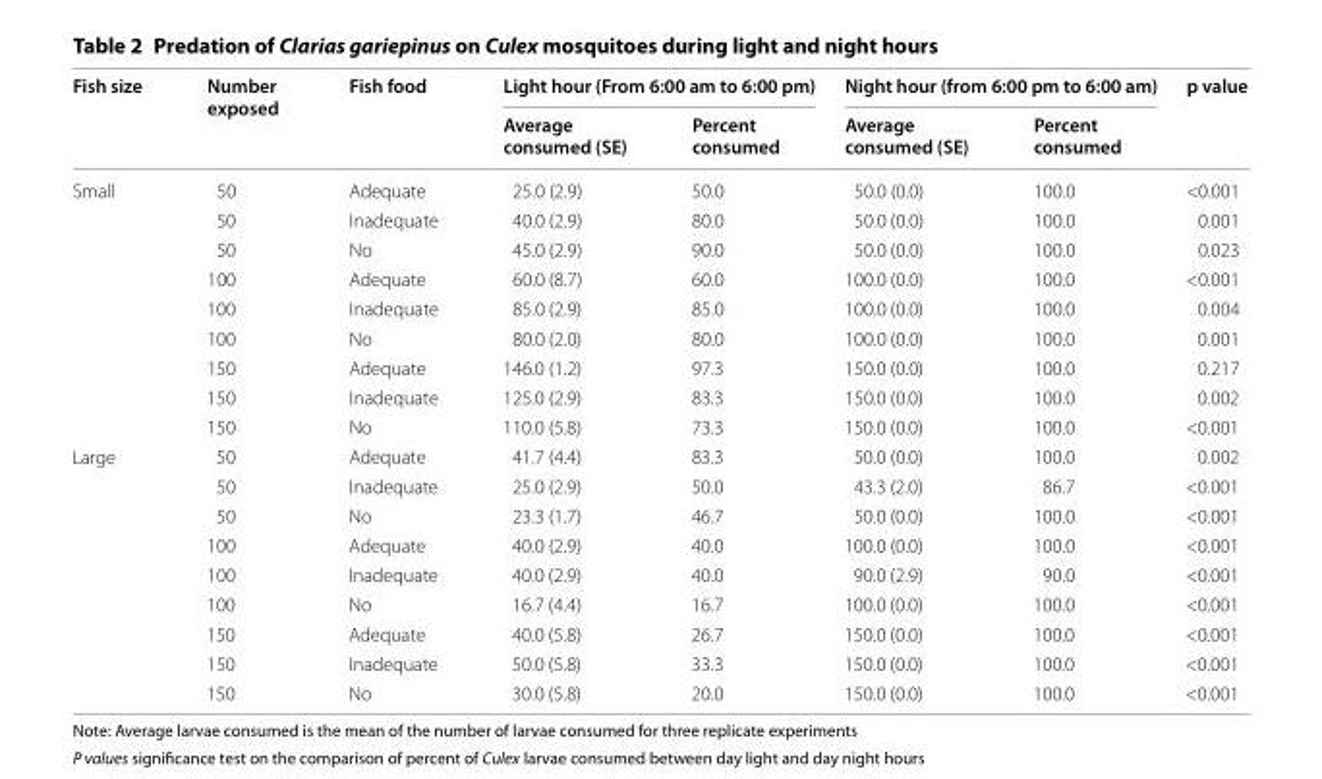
<table><thead><tr><td rowspan="2">Fish size</td><td rowspan="2">Number exposed</td><td rowspan="2">Fish food</td><td colspan="2">Light hour (From 6:00 am to 6:00 pm)</td><td colspan="2">Night hour (from 6:00 pm to 6:00 am)</td><td rowspan="2">p value</td></tr><tr><td>Average consumed (SE)</td><td>Percent consumed</td><td>Average consumed (SE)</td><td>Percent consumed</td></tr></thead><tbody><tr><td rowspan="9">Small</td><td>50</td><td>Adequate</td><td>25.0 (2.9)</td><td>50.0</td><td>50.0 (0.0)</td><td>100.0</td><td>&lt;0.001</td></tr><tr><td>50</td><td>Inadequate</td><td>40.0 (2.9)</td><td>80.0</td><td>50.0 (0.0)</td><td>100.0</td><td>0.001</td></tr><tr><td>50</td><td>No</td><td>45.0 (2.9)</td><td>90.0</td><td>50.0 (0.0)</td><td>100.0</td><td>0.023</td></tr><tr><td>100</td><td>Adequate</td><td>60.0 (8.7)</td><td>60.0</td><td>100.0 (0.0)</td><td>100.0</td><td>&lt;0.001</td></tr><tr><td>100</td><td>Inadequate</td><td>85.0 (2.9)</td><td>85.0</td><td>100.0 (0.0)</td><td>100.0</td><td>0.004</td></tr><tr><td>100</td><td>No</td><td>80.0 (2.0)</td><td>80.0</td><td>100.0 (0.0)</td><td>100.0</td><td>0.001</td></tr><tr><td>150</td><td>Adequate</td><td>146.0 (1.2)</td><td>97.3</td><td>150.0 (0.0)</td><td>100.0</td><td>0.217</td></tr><tr><td>150</td><td>Inadequate</td><td>125.0 (2.9)</td><td>83.3</td><td>150.0 (0.0)</td><td>100.0</td><td>0.002</td></tr><tr><td>150</td><td>No</td><td>110.0 (5.8)</td><td>73.3</td><td>150.0 (0.0)</td><td>100.0</td><td>&lt;0.001</td></tr><tr><td rowspan="9">Large</td><td>50</td><td>Adequate</td><td>41.7 (4.4)</td><td>83.3</td><td>50.0 (0.0)</td><td>100.0</td><td>0.002</td></tr><tr><td>50</td><td>Inadequate</td><td>25.0 (2.9)</td><td>50.0</td><td>43.3 (2.0)</td><td>86.7</td><td>&lt;0.001</td></tr><tr><td>50</td><td>No</td><td>23.3 (1.7)</td><td>46.7</td><td>50.0 (0.0)</td><td>100.0</td><td>&lt;0.001</td></tr><tr><td>100</td><td>Adequate</td><td>40.0 (2.9)</td><td>40.0</td><td>100.0 (0.0)</td><td>100.0</td><td>&lt;0.001</td></tr><tr><td>100</td><td>Inadequate</td><td>40.0 (2.9)</td><td>40.0</td><td>90.0 (2.9)</td><td>90.0</td><td>&lt;0.001</td></tr><tr><td>100</td><td>No</td><td>16.7 (4.4)</td><td>16.7</td><td>100.0 (0.0)</td><td>100.0</td><td>&lt;0.001</td></tr><tr><td>150</td><td>Adequate</td><td>40.0 (5.8)</td><td>26.7</td><td>150.0 (0.0)</td><td>100.0</td><td>&lt;0.001</td></tr><tr><td>150</td><td>Inadequate</td><td>50.0 (5.8)</td><td>33.3</td><td>150.0 (0.0)</td><td>100.0</td><td>&lt;0.001</td></tr><tr><td>150</td><td>No</td><td>30.0 (5.8)</td><td>20.0</td><td>150.0 (0.0)</td><td>100.0</td><td>&lt;0.001</td></tr></tbody></table>